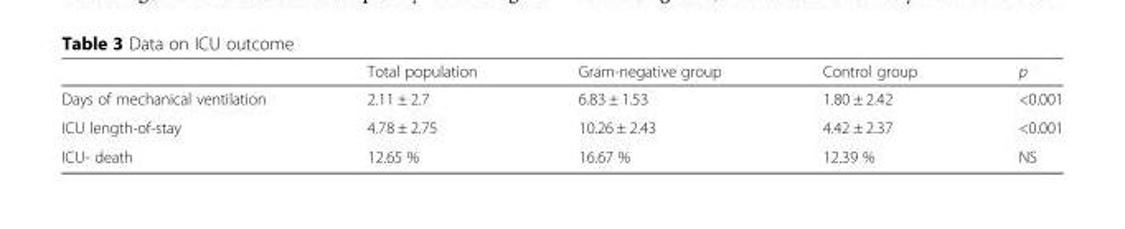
<table><thead><tr><td></td><td>Total population</td><td>Gram-negative group</td><td>Control group</td><td>p</td></tr></thead><tbody><tr><td>Days of mechanical ventilation</td><td>2.11 ± 2.7</td><td>6.83 ± 1.53</td><td>1.80 ± 2.42</td><td>&lt;0.001</td></tr><tr><td>ICU length-of-stay</td><td>4.78 ± 2.75</td><td>10.26 ± 2.43</td><td>4.42 ± 2.37</td><td>&lt;0.001</td></tr><tr><td>ICU- death</td><td>12.65 %</td><td>16.67 %</td><td>12.39 %</td><td>NS</td></tr></tbody></table>